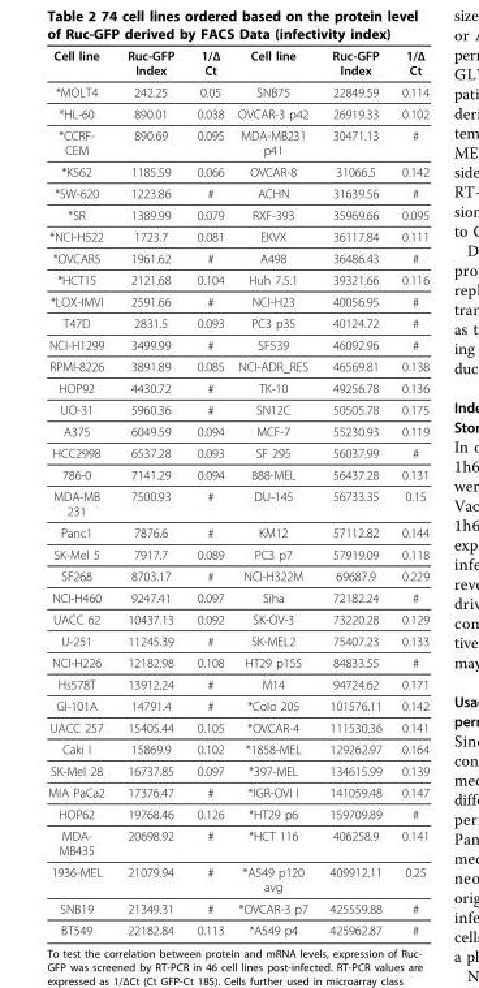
<table><thead><tr><td>Cell line</td><td>Ruc-GFP Index</td><td>1/Δ Ct</td><td>Cell line</td><td>Ruc-GFP Index</td><td>1/Δ Ct</td></tr></thead><tbody><tr><td>*MOLT4</td><td>242.25</td><td>0.05</td><td>SNB75</td><td>22849.59</td><td>0.114</td></tr><tr><td>*HL-60</td><td>890.01</td><td>0.038</td><td>OVCAR-3 p42</td><td>26919.33</td><td>0.102</td></tr><tr><td>*CCRF- CEM</td><td>890.69</td><td>0.095</td><td>MDA-MB231 p41</td><td>30471.13</td><td>#</td></tr><tr><td>*K562</td><td>1185.59</td><td>0.066</td><td>OVCAR-8</td><td>31066.5</td><td>0.142</td></tr><tr><td>*SW-620</td><td>1223.86</td><td>#</td><td>ACHN</td><td>31639.56</td><td>#</td></tr><tr><td>*SR</td><td>1389.99</td><td>0.079</td><td>RXF-393</td><td>35969.66</td><td>0.095</td></tr><tr><td>*NCI-H522</td><td>1723.7</td><td>0.081</td><td>EKVX</td><td>36117.84</td><td>0.111</td></tr><tr><td>*OVCAR5</td><td>1961.62</td><td>#</td><td>A498</td><td>36486.43</td><td>#</td></tr><tr><td>*HCT15</td><td>2121.68</td><td>0.104</td><td>Huh 7.5.1</td><td>39321.66</td><td>0.116</td></tr><tr><td>*LOX-IMVI</td><td>2591.66</td><td>#</td><td>NCI-H23</td><td>40056.95</td><td>#</td></tr><tr><td>T47D</td><td>2831.5</td><td>0.093</td><td>PC3 p35</td><td>40124.72</td><td>#</td></tr><tr><td>NCI-H1299</td><td>3499.99</td><td>#</td><td>SF539</td><td>46092.96</td><td>#</td></tr><tr><td>RPMI-8226</td><td>3891.89</td><td>0.085</td><td>NCI-ADR_RES</td><td>46569.81</td><td>0.138</td></tr><tr><td>HOP92</td><td>4430.72</td><td>#</td><td>TK-10</td><td>49256.78</td><td>0.136</td></tr><tr><td>UO-31</td><td>5960.36</td><td>#</td><td>SN12C</td><td>50505.78</td><td>0.175</td></tr><tr><td>A375</td><td>6049.59</td><td>0.094</td><td>MCF-7</td><td>55230.93</td><td>0.119</td></tr><tr><td>HCC2998</td><td>6537.28</td><td>0.093</td><td>SF 295</td><td>56037.99</td><td>#</td></tr><tr><td>786-0</td><td>7141.29</td><td>0.094</td><td>888-MEL</td><td>56437.28</td><td>0.131</td></tr><tr><td>MDA-MB 231</td><td>7500.93</td><td>#</td><td>DU-145</td><td>56733.35</td><td>0.15</td></tr><tr><td>Panc1</td><td>7876.6</td><td>#</td><td>KM12</td><td>57112.82</td><td>0.144</td></tr><tr><td>SK-Mel 5</td><td>7917.7</td><td>0.089</td><td>PC3 p7</td><td>57919.09</td><td>0.118</td></tr><tr><td>SF268</td><td>8703.17</td><td>#</td><td>NCI-H322M</td><td>69687.9</td><td>0.229</td></tr><tr><td>NCI-H460</td><td>9247.41</td><td>0.097</td><td>Siha</td><td>72182.24</td><td>#</td></tr><tr><td>UACC 62</td><td>10437.13</td><td>0.092</td><td>SK-OV-3</td><td>73220.28</td><td>0.129</td></tr><tr><td>U-251</td><td>11245.39</td><td>#</td><td>SK-MEL2</td><td>75407.23</td><td>0.133</td></tr><tr><td>NCI-H226</td><td>12182.98</td><td>0.108</td><td>HT29 p155</td><td>84833.55</td><td>#</td></tr><tr><td>Hs578T</td><td>13912.24</td><td>#</td><td>M14</td><td>94724.62</td><td>0.171</td></tr><tr><td>GI-101A</td><td>14791.4</td><td>#</td><td>*Colo 205</td><td>101576.11</td><td>0.142</td></tr><tr><td>UACC 257</td><td>15405.44</td><td>0.105</td><td>*OVCAR-4</td><td>111530.36</td><td>0.141</td></tr><tr><td>Caki I</td><td>15869.9</td><td>0.102</td><td>*1858-MEL</td><td>129262.97</td><td>0.164</td></tr><tr><td>SK-Mel 28</td><td>16737.85</td><td>0.097</td><td>*397-MEL</td><td>134615.99</td><td>0.139</td></tr><tr><td>MIA PaCa2</td><td>17376.47</td><td>#</td><td>*IGR-OVI I</td><td>141059.48</td><td>0.147</td></tr><tr><td>HOP62</td><td>19768.46</td><td>0.126</td><td>*HT29 p6</td><td>159709.89</td><td>#</td></tr><tr><td>MDA- MB435</td><td>20698.92</td><td>#</td><td>*HCT 116</td><td>406258.9</td><td>0.141</td></tr><tr><td>1936-MEL</td><td>21079.94</td><td>#</td><td>*A549 p120 avg</td><td>409912.11</td><td>0.25</td></tr><tr><td>SNB19</td><td>21349.31</td><td>#</td><td>*OVCAR-3 p7</td><td>425559.88</td><td>#</td></tr><tr><td>BT549</td><td>22182.84</td><td>0.113</td><td>*A549 p4</td><td>425962.87</td><td>#</td></tr></tbody></table>